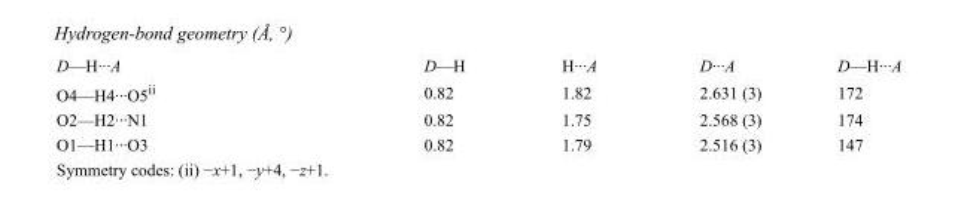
<table><tbody><tr><td>D—H···A</td><td>D—H</td><td>H···A</td><td>D···A</td><td>D—H···A</td></tr><tr><td>O4—H4···O5<sup>ii</sup></td><td>0.82</td><td>1.82</td><td>2.631 (3)</td><td>172</td></tr><tr><td>O2—H2···N1</td><td>0.82</td><td>1.75</td><td>2.568 (3)</td><td>174</td></tr><tr><td>O1—H1···O3</td><td>0.82</td><td>1.79</td><td>2.516 (3)</td><td>147</td></tr></tbody></table>